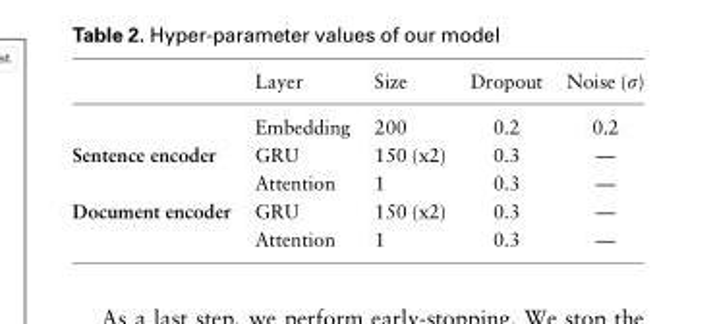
<table><thead><tr><td></td><td>Layer</td><td>Size</td><td>Dropout</td><td>Noise (σ)</td></tr></thead><tbody><tr><td></td><td>Embedding</td><td>200</td><td>0.2</td><td>0.2</td></tr><tr><td rowspan="2">Sentence encoder</td><td>GRU</td><td>150 (x2)</td><td>0.3</td><td>—</td></tr><tr><td>Attention</td><td>1</td><td>0.3</td><td>—</td></tr><tr><td rowspan="2">Document encoder</td><td>GRU</td><td>150 (x2)</td><td>0.3</td><td>—</td></tr><tr><td>Attention</td><td>1</td><td>0.3</td><td>—</td></tr></tbody></table>